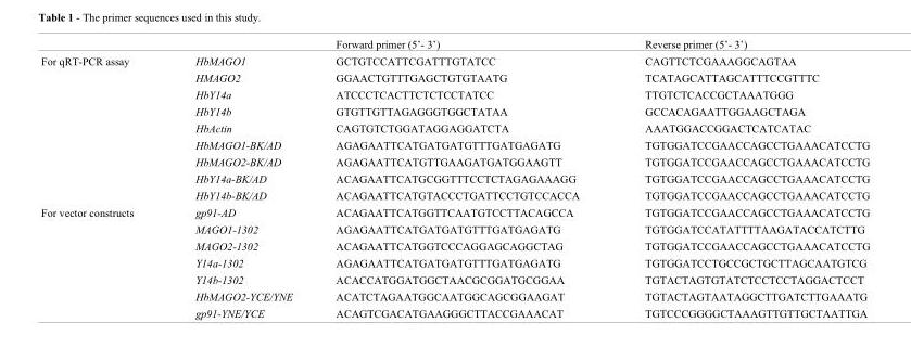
<table><thead><tr><td></td><td></td><td>Forward primer (5’- 3’)</td><td>Reverse primer (5’- 3’)</td></tr></thead><tbody><tr><td rowspan="9">For qRT-PCR assay</td><td>HbMAGO1</td><td>GCTGTCCATTCGATTTGTATCC</td><td>CAGTTCTCGAAAGGCAGTAA</td></tr><tr><td>HMAGO2</td><td>GGAACTGTTTGAGCTGTGTAATG</td><td>TCATAGCATTAGCATTTCCGTTTC</td></tr><tr><td>HbY14a</td><td>ATCCCTCACTTCTCTCCTATCC</td><td>TTGTCTCACCGCTAAATGGG</td></tr><tr><td>HbY14b</td><td>GTGTTGTTAGAGGGTGGCTATAA</td><td>GCCACAGAATTGGAAGCTAGA</td></tr><tr><td>HbActin</td><td>CAGTGTCTGGATAGGAGGATCTA</td><td>AAATGGACCGGACTCATCATAC</td></tr><tr><td>HbMAGO1-BK/AD</td><td>AGAGAATTCATGATGATGTTTGATGAGATG</td><td>TGTGGATCCGAACCAGCCTGAAACATCCTG</td></tr><tr><td>HbMAGO2-BK/AD</td><td>AGAGAATTCATGTTGAAGATGATGGAAGTT</td><td>TGTGGATCCGAACCAGCCTGAAACATCCTG</td></tr><tr><td>HbY14a-BK/AD</td><td>ACAGAATTCATGCGGTTTCCTCTAGAGAAAGG</td><td>TGTGGATCCGAACCAGCCTGAAACATCCTG</td></tr><tr><td>HbY14b-BK/AD</td><td>ACAGAATTCATGTACCCTGATTCCTGTCCACCA</td><td>TGTGGATCCGAACCAGCCTGAAACATCCTG</td></tr><tr><td rowspan="7">For vector constructs</td><td>gp91-AD</td><td>ACAGAATTCATGGTTCAATGTCCTTACAGCCA</td><td>TGTGGATCCGAACCAGCCTGAAACATCCTG</td></tr><tr><td>MAGO1-1302</td><td>AGAGAATTCATGATGATGTTTGATGAGATG</td><td>TGTGGATCCATATTTTAAGATACCATCTTG</td></tr><tr><td>MAGO2-1302</td><td>ACAGAATTCATGGTCCCAGGAGCAGGCTAG</td><td>TGTGGATCCGAACCAGCCTGAAACATCCTG</td></tr><tr><td>Y14a-1302</td><td>AGAGAATTCATGATGATGTTTGATGAGATG</td><td>TGTGGATCCTGCCGCTGCTTAGCAATGTCG</td></tr><tr><td>Y14b-1302</td><td>ACACCATGGATGGCTAACGCGGATGCGGAA</td><td>TGTACTAGTGTATCTCCTCCTAGGACTCCT</td></tr><tr><td>HbMAGO2-YCE/YNE</td><td>ACATCTAGAATGGCAATGGCAGCGGAAGAT</td><td>TGTACTAGTAATAGGCTTGATCTTGAAATG</td></tr><tr><td>gp91-YNE/YCE</td><td>ACAGTCGACATGAAGGGCTTACCGAAACAT</td><td>TGTCCCGGGGCTAAAGTTGTTGCTAATTGA</td></tr></tbody></table>